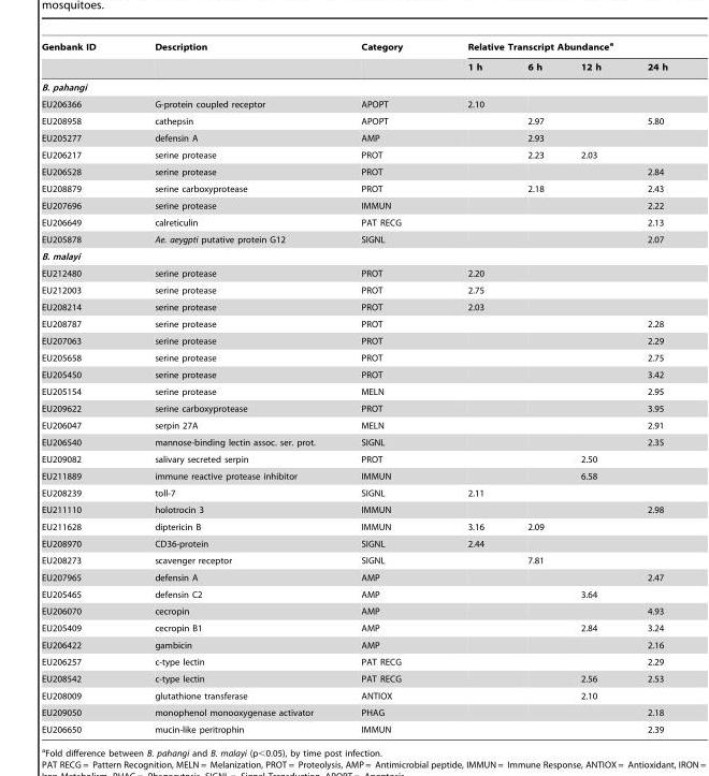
<table><thead><tr><td rowspan="2">Genbank ID</td><td rowspan="2">Description</td><td rowspan="2">Category</td><td colspan="4">Relative Transcript Abundance<sup>a</sup></td></tr><tr><td>1 h</td><td>6 h</td><td>12 h</td><td>24 h</td></tr></thead><tbody><tr><td colspan="7">B. pahangi</td></tr><tr><td>EU206366</td><td>G-protein coupled receptor</td><td>APOPT</td><td>2.10</td><td></td><td></td><td></td></tr><tr><td>EU208958</td><td>cathepsin</td><td>APOPT</td><td></td><td>2.97</td><td></td><td>5.80</td></tr><tr><td>EU205277</td><td>defensin A</td><td>AMP</td><td></td><td>2.93</td><td></td><td></td></tr><tr><td>EU206217</td><td>serine protease</td><td>PROT</td><td></td><td>2.23</td><td>2.03</td><td></td></tr><tr><td>EU206528</td><td>serine protease</td><td>PROT</td><td></td><td></td><td></td><td>2.84</td></tr><tr><td>EU208879</td><td>serine carboxyprotease</td><td>PROT</td><td></td><td>2.18</td><td></td><td>2.43</td></tr><tr><td>EU207696</td><td>serine protease</td><td>IMMUN</td><td></td><td></td><td></td><td>2.22</td></tr><tr><td>EU206649</td><td>calreticulin</td><td>PAT RECG</td><td></td><td></td><td></td><td>2.13</td></tr><tr><td>EU205878</td><td>Ae. aeygpti putative protein G12</td><td>SIGNL</td><td></td><td></td><td></td><td>2.07</td></tr><tr><td colspan="7">B. malayi</td></tr><tr><td>EU212480</td><td>serine protease</td><td>PROT</td><td>2.20</td><td></td><td></td><td></td></tr><tr><td>EU212003</td><td>serine protease</td><td>PROT</td><td>2.75</td><td></td><td></td><td></td></tr><tr><td>EU208214</td><td>serine protease</td><td>PROT</td><td>2.03</td><td></td><td></td><td></td></tr><tr><td>EU208787</td><td>serine protease</td><td>PROT</td><td></td><td></td><td></td><td>2.28</td></tr><tr><td>EU207063</td><td>serine protease</td><td>PROT</td><td></td><td></td><td></td><td>2.29</td></tr><tr><td>EU205658</td><td>serine protease</td><td>PROT</td><td></td><td></td><td></td><td>2.75</td></tr><tr><td>EU205450</td><td>serine protease</td><td>PROT</td><td></td><td></td><td></td><td>3.42</td></tr><tr><td>EU205154</td><td>serine protease</td><td>MELN</td><td></td><td></td><td></td><td>2.95</td></tr><tr><td>EU209622</td><td>serine carboxyprotease</td><td>PROT</td><td></td><td></td><td></td><td>3.95</td></tr><tr><td>EU206047</td><td>serpin 27A</td><td>MELN</td><td></td><td></td><td></td><td>2.91</td></tr><tr><td>EU206540</td><td>mannose-binding lectin assoc. ser. prot.</td><td>SIGNL</td><td></td><td></td><td></td><td>2.35</td></tr><tr><td>EU209082</td><td>salivary secreted serpin</td><td>PROT</td><td></td><td></td><td>2.50</td><td></td></tr><tr><td>EU211889</td><td>immune reactive protease inhibitor</td><td>IMMUN</td><td></td><td></td><td>6.58</td><td></td></tr><tr><td>EU208239</td><td>toll-7</td><td>SIGNL</td><td>2.11</td><td></td><td></td><td></td></tr><tr><td>EU211110</td><td>holotrocin 3</td><td>IMMUN</td><td></td><td></td><td></td><td>2.98</td></tr><tr><td>EU211628</td><td>diptericin B</td><td>IMMUN</td><td>3.16</td><td>2.09</td><td></td><td></td></tr><tr><td>EU208970</td><td>CD36-protein</td><td>SIGNL</td><td>2.44</td><td></td><td></td><td></td></tr><tr><td>EU208273</td><td>scavenger receptor</td><td>SIGNL</td><td></td><td>7.81</td><td></td><td></td></tr><tr><td>EU207965</td><td>defensin A</td><td>AMP</td><td></td><td></td><td></td><td>2.47</td></tr><tr><td>EU205465</td><td>defensin C2</td><td>AMP</td><td></td><td></td><td>3.64</td><td></td></tr><tr><td>EU206070</td><td>cecropin</td><td>AMP</td><td></td><td></td><td></td><td>4.93</td></tr><tr><td>EU205409</td><td>cecropin B1</td><td>AMP</td><td></td><td></td><td>2.84</td><td>3.24</td></tr><tr><td>EU206422</td><td>gambicin</td><td>AMP</td><td></td><td></td><td></td><td>2.16</td></tr><tr><td>EU206257</td><td>c-type lectin</td><td>PAT RECG</td><td></td><td></td><td></td><td>2.29</td></tr><tr><td>EU208542</td><td>c-type lectin</td><td>PAT RECG</td><td></td><td></td><td>2.56</td><td>2.53</td></tr><tr><td>EU208009</td><td>glutathione transferase</td><td>ANTIOX</td><td></td><td></td><td>2.10</td><td></td></tr><tr><td>EU209050</td><td>monophenol monooxygenase activator</td><td>PHAG</td><td></td><td></td><td></td><td>2.18</td></tr><tr><td>EU206650</td><td>mucin-like peritrophin</td><td>IMMUN</td><td></td><td></td><td></td><td>2.39</td></tr></tbody></table>